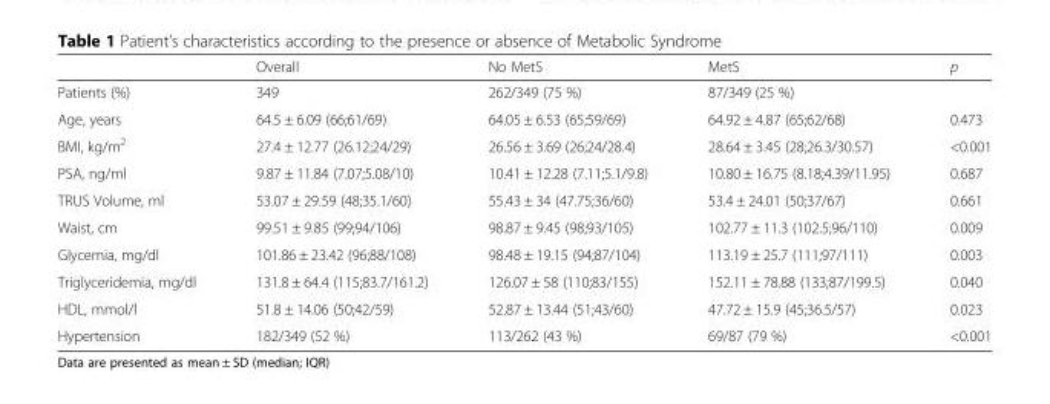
<table><thead><tr><td></td><td>Overall</td><td>No MetS</td><td>MetS</td><td>p</td></tr></thead><tbody><tr><td>Patients (%)</td><td>349</td><td>262/349 (75 %)</td><td>87/349 (25 %)</td><td></td></tr><tr><td>Age, years</td><td>64.5 ± 6.09 (66;61/69)</td><td>64.05 ± 6.53 (65;59/69)</td><td>64.92 ± 4.87 (65;62/68)</td><td>0.473</td></tr><tr><td>BMI, kg/m<sup>2</sup></td><td>27.4 ± 12.77 (26.12;24/29)</td><td>26.56 ± 3.69 (26;24/28.4)</td><td>28.64 ± 3.45 (28;26.3/30.57)</td><td>&lt;0.001</td></tr><tr><td>PSA, ng/ml</td><td>9.87 ± 11.84 (7.07;5.08/10)</td><td>10.41 ± 12.28 (7.11;5.1/9.8)</td><td>10.80 ± 16.75 (8.18;4.39/11.95)</td><td>0.687</td></tr><tr><td>TRUS Volume, ml</td><td>53.07 ± 29.59 (48;35.1/60)</td><td>55.43 ± 34 (47.75;36/60)</td><td>53.4 ± 24.01 (50;37/67)</td><td>0.661</td></tr><tr><td>Waist, cm</td><td>99.51 ± 9.85 (99;94/106)</td><td>98.87 ± 9.45 (98;93/105)</td><td>102.77 ± 11.3 (102.5;96/110)</td><td>0.009</td></tr><tr><td>Glycemia, mg/dl</td><td>101.86 ± 23.42 (96;88/108)</td><td>98.48 ± 19.15 (94;87/104)</td><td>113.19 ± 25.7 (111;97/111)</td><td>0.003</td></tr><tr><td>Triglyceridemia, mg/dl</td><td>131.8 ± 64.4 (115;83.7/161.2)</td><td>126.07 ± 58 (110;83/155)</td><td>152.11 ± 78.88 (133;87/199.5)</td><td>0.040</td></tr><tr><td>HDL, mmol/l</td><td>51.8 ± 14.06 (50;42/59)</td><td>52.87 ± 13.44 (51;43/60)</td><td>47.72 ± 15.9 (45;36.5/57)</td><td>0.023</td></tr><tr><td>Hypertension</td><td>182/349 (52 %)</td><td>113/262 (43 %)</td><td>69/87 (79 %)</td><td>&lt;0.001</td></tr></tbody></table>